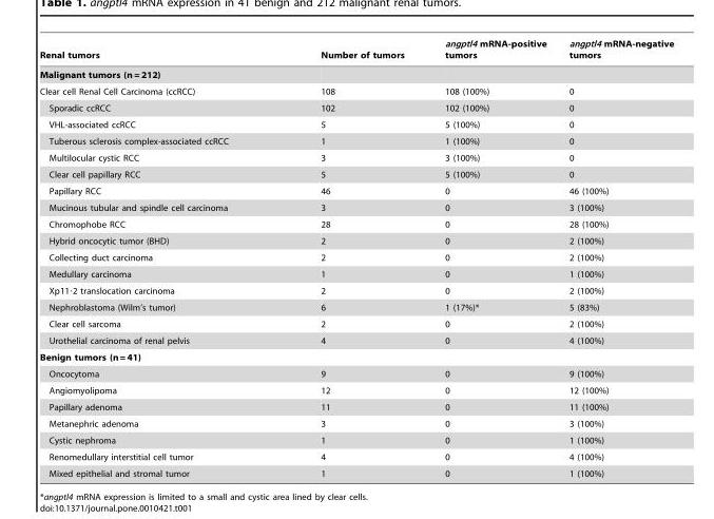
<table><thead><tr><td>Renal tumors</td><td>Number of tumors</td><td>angptl4 mRNA-positive tumors</td><td>angptl4 mRNA-negative tumors</td></tr></thead><tbody><tr><td colspan="4">Malignant tumors (n = 212)</td></tr><tr><td>Clear cell Renal Cell Carcinoma (ccRCC)</td><td>108</td><td>108 (100%)</td><td>0</td></tr><tr><td>Sporadic ccRCC</td><td>102</td><td>102 (100%)</td><td>0</td></tr><tr><td>VHL-associated ccRCC</td><td>5</td><td>5 (100%)</td><td>0</td></tr><tr><td>Tuberous sclerosis complex-associated ccRCC</td><td>1</td><td>1 (100%)</td><td>0</td></tr><tr><td>Multilocular cystic RCC</td><td>3</td><td>3 (100%)</td><td>0</td></tr><tr><td>Clear cell papillary RCC</td><td>5</td><td>5 (100%)</td><td>0</td></tr><tr><td>Papillary RCC</td><td>46</td><td>0</td><td>46 (100%)</td></tr><tr><td>Mucinous tubular and spindle cell carcinoma</td><td>3</td><td>0</td><td>3 (100%)</td></tr><tr><td>Chromophobe RCC</td><td>28</td><td>0</td><td>28 (100%)</td></tr><tr><td>Hybrid oncocytic tumor (BHD)</td><td>2</td><td>0</td><td>2 (100%)</td></tr><tr><td>Collecting duct carcinoma</td><td>2</td><td>0</td><td>2 (100%)</td></tr><tr><td>Medullary carcinoma</td><td>1</td><td>0</td><td>1 (100%)</td></tr><tr><td>Xp11⋅2 translocation carcinoma</td><td>2</td><td>0</td><td>2 (100%)</td></tr><tr><td>Nephroblastoma (Wilm’s tumor)</td><td>6</td><td>1 (17%)*</td><td>5 (83%)</td></tr><tr><td>Clear cell sarcoma</td><td>2</td><td>0</td><td>2 (100%)</td></tr><tr><td>Urothelial carcinoma of renal pelvis</td><td>4</td><td>0</td><td>4 (100%)</td></tr><tr><td colspan="4">Benign tumors (n = 41)</td></tr><tr><td>Oncocytoma</td><td>9</td><td>0</td><td>9 (100%)</td></tr><tr><td>Angiomyolipoma</td><td>12</td><td>0</td><td>12 (100%)</td></tr><tr><td>Papillary adenoma</td><td>11</td><td>0</td><td>11 (100%)</td></tr><tr><td>Metanephric adenoma</td><td>3</td><td>0</td><td>3 (100%)</td></tr><tr><td>Cystic nephroma</td><td>1</td><td>0</td><td>1 (100%)</td></tr><tr><td>Renomedullary interstitial cell tumor</td><td>4</td><td>0</td><td>4 (100%)</td></tr><tr><td>Mixed epithelial and stromal tumor</td><td>1</td><td>0</td><td>1 (100%)</td></tr></tbody></table>